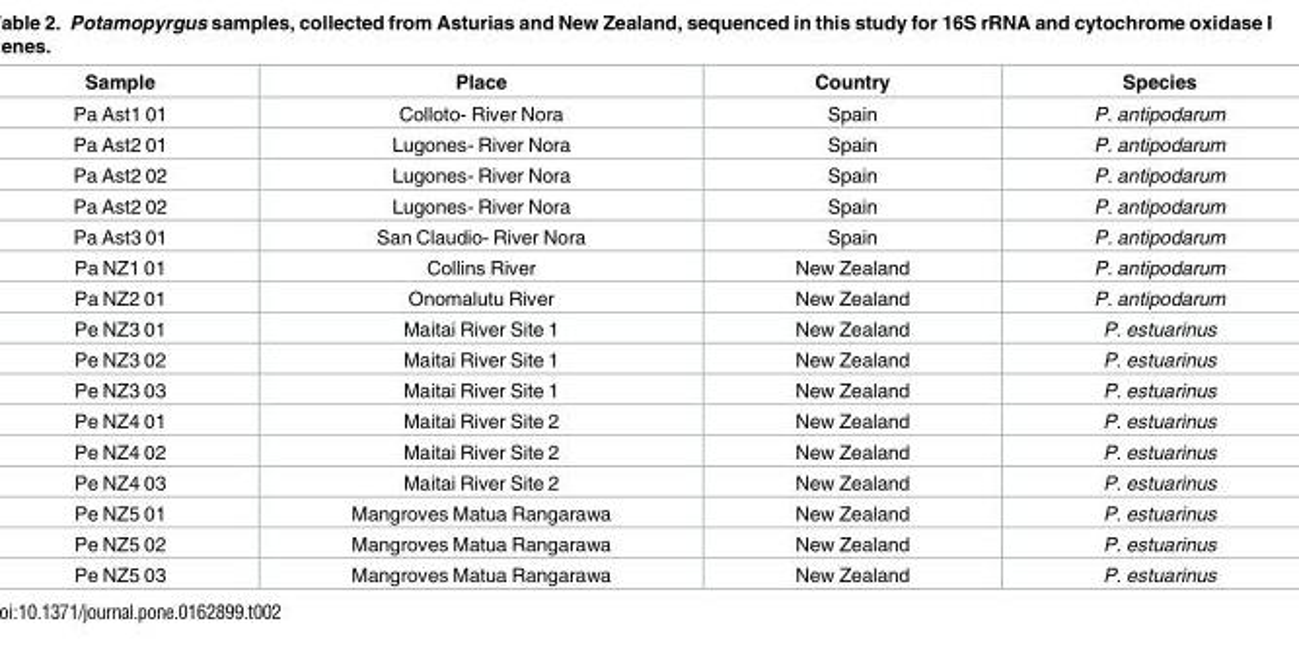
<table><thead><tr><td>Sample</td><td>Place</td><td>Country</td><td>Species</td></tr></thead><tbody><tr><td>Pa Ast1 01</td><td>Colloto- River Nora</td><td>Spain</td><td>P. antipodarum</td></tr><tr><td>Pa Ast2 01</td><td>Lugones- River Nora</td><td>Spain</td><td>P. antipodarum</td></tr><tr><td>Pa Ast2 02</td><td>Lugones- River Nora</td><td>Spain</td><td>P. antipodarum</td></tr><tr><td>Pa Ast2 02</td><td>Lugones- River Nora</td><td>Spain</td><td>P. antipodarum</td></tr><tr><td>Pa Ast3 01</td><td>San Claudio- River Nora</td><td>Spain</td><td>P. antipodarum</td></tr><tr><td>Pa NZ1 01</td><td>Collins River</td><td>New Zealand</td><td>P. antipodarum</td></tr><tr><td>Pa NZ2 01</td><td>Onomalutu River</td><td>New Zealand</td><td>P. antipodarum</td></tr><tr><td>Pe NZ3 01</td><td>Maitai River Site 1</td><td>New Zealand</td><td>P. estuarinus</td></tr><tr><td>Pe NZ3 02</td><td>Maitai River Site 1</td><td>New Zealand</td><td>P. estuarinus</td></tr><tr><td>Pe NZ3 03</td><td>Maitai River Site 1</td><td>New Zealand</td><td>P. estuarinus</td></tr><tr><td>Pe NZ4 01</td><td>Maitai River Site 2</td><td>New Zealand</td><td>P. estuarinus</td></tr><tr><td>Pe NZ4 02</td><td>Maitai River Site 2</td><td>New Zealand</td><td>P. estuarinus</td></tr><tr><td>Pe NZ4 03</td><td>Maitai River Site 2</td><td>New Zealand</td><td>P. estuarinus</td></tr><tr><td>Pe NZ5 01</td><td>Mangroves Matua Rangarawa</td><td>New Zealand</td><td>P. estuarinus</td></tr><tr><td>Pe NZ5 02</td><td>Mangroves Matua Rangarawa</td><td>New Zealand</td><td>P. estuarinus</td></tr><tr><td>Pe NZ5 03</td><td>Mangroves Matua Rangarawa</td><td>New Zealand</td><td>P. estuarinus</td></tr></tbody></table>